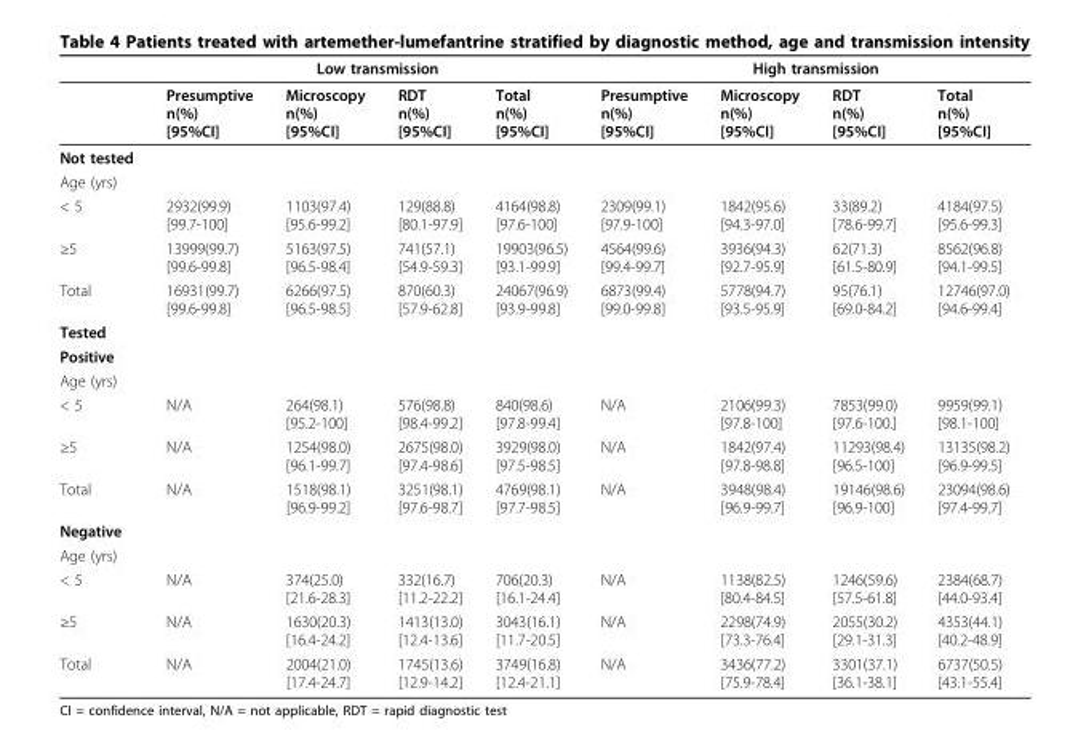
<table><thead><tr><td rowspan="2"></td><td colspan="4">Low transmission</td><td colspan="4">High transmission</td></tr><tr><td>Presumptive n(%) [95%CI]</td><td>Microscopy n(%) [95%CI]</td><td>RDT n(%) [95%CI]</td><td>Total n(%) [95%CI]</td><td>Presumptive n(%) [95%CI]</td><td>Microscopy n(%) [95%CI]</td><td>RDT n(%) [95%CI]</td><td>Total n(%) [95%CI]</td></tr></thead><tbody><tr><td colspan="9">Not tested</td></tr><tr><td colspan="9">Age (yrs)</td></tr><tr><td>&lt; 5</td><td>2932(99.9) [99.7-100]</td><td>1103(97.4) [95.6-99.2]</td><td>129(88.8) [80.1-97.9]</td><td>4164(98.8) [97.6-100]</td><td>2309(99.1) [97.9-100]</td><td>1842(95.6) [94.3-97.0]</td><td>33(89.2) [78.6-99.7]</td><td>4184(97.5) [95.6-99.3]</td></tr><tr><td>≥5</td><td>13999(99.7) [99.6-99.8]</td><td>5163(97.5) [96.5-98.4]</td><td>741(57.1) [54.9-59.3]</td><td>19903(96.5) [93.1-99.9]</td><td>4564(99.6) [99.4-99.7]</td><td>3936(94.3) [92.7-95.9]</td><td>62(71.3) [61.5-80.9]</td><td>8562(96.8) [94.1-99.5]</td></tr><tr><td>Total</td><td>16931(99.7) [99.6-99.8]</td><td>6266(97.5) [96.5-98.5]</td><td>870(60.3) [57.9-62.8]</td><td>24067(96.9) [93.9-99.8]</td><td>6873(99.4) [99.0-99.8]</td><td>5778(94.7) [93.5-95.9]</td><td>95(76.1) [69.0-84.2]</td><td>12746(97.0) [94.6-99.4]</td></tr><tr><td colspan="9">Tested</td></tr><tr><td colspan="9">Positive</td></tr><tr><td colspan="9">Age (yrs)</td></tr><tr><td>&lt; 5</td><td>N/A</td><td>264(98.1) [95.2-100]</td><td>576(98.8) [98.4-99.2]</td><td>840(98.6) [97.8-99.4]</td><td>N/A</td><td>2106(99.3) [97.8-100]</td><td>7853(99.0) [97.6-100.]</td><td>9959(99.1) [98.1-100]</td></tr><tr><td>≥5</td><td>N/A</td><td>1254(98.0) [96.1-99.7]</td><td>2675(98.0) [97.4-98.6]</td><td>3929(98.0) [97.5-98.5]</td><td>N/A</td><td>1842(97.4) [97.8-98.8]</td><td>11293(98.4) [96.5-100]</td><td>13135(98.2) [96.9-99.5]</td></tr><tr><td>Total</td><td>N/A</td><td>1518(98.1) [96.9-99.2]</td><td>3251(98.1) [97.6-98.7]</td><td>4769(98.1) [97.7-98.5]</td><td>N/A</td><td>3948(98.4) [96.9-99.7]</td><td>19146(98.6) [96.9-100]</td><td>23094(98.6) [97.4-99.7]</td></tr><tr><td colspan="9">Negative</td></tr><tr><td colspan="9">Age (yrs)</td></tr><tr><td>&lt; 5</td><td>N/A</td><td>374(25.0) [21.6-28.3]</td><td>332(16.7) [11.2-22.2]</td><td>706(20.3) [16.1-24.4]</td><td>N/A</td><td>1138(82.5) [80.4-84.5]</td><td>1246(59.6) [57.5-61.8]</td><td>2384(68.7) [44.0-93.4]</td></tr><tr><td>≥5</td><td>N/A</td><td>1630(20.3) [16.4-24.2]</td><td>1413(13.0) [12.4-13.6]</td><td>3043(16.1) [11.7-20.5]</td><td>N/A</td><td>2298(74.9) [73.3-76.4]</td><td>2055(30.2) [29.1-31.3]</td><td>4353(44.1) [40.2-48.9]</td></tr><tr><td>Total</td><td>N/A</td><td>2004(21.0) [17.4-24.7]</td><td>1745(13.6) [12.9-14.2]</td><td>3749(16.8) [12.4-21.1]</td><td>N/A</td><td>3436(77.2) [75.9-78.4]</td><td>3301(37.1) [36.1-38.1]</td><td>6737(50.5) [43.1-55.4]</td></tr></tbody></table>